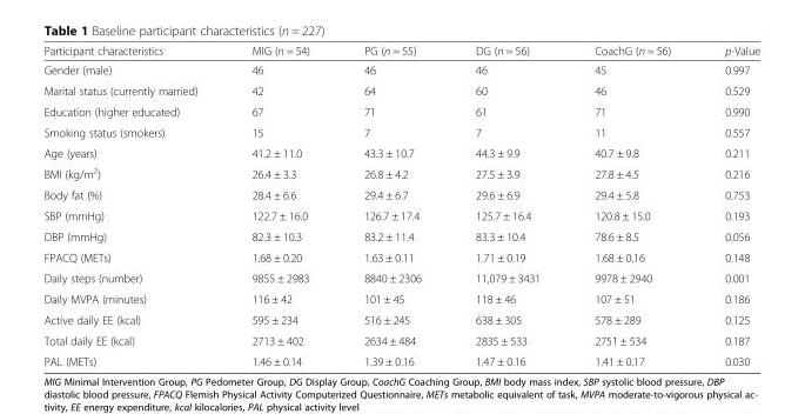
<table><thead><tr><td>Participant characteristics</td><td>MIG (n = 54)</td><td>PG (n = 55)</td><td>DG (n = 56)</td><td>CoachG (n = 56)</td><td>p-Value</td></tr></thead><tbody><tr><td>Gender (male)</td><td>46</td><td>46</td><td>46</td><td>45</td><td>0.997</td></tr><tr><td>Marital status (currently married)</td><td>42</td><td>64</td><td>60</td><td>46</td><td>0.529</td></tr><tr><td>Education (higher educated)</td><td>67</td><td>71</td><td>61</td><td>71</td><td>0.990</td></tr><tr><td>Smoking status (smokers)</td><td>15</td><td>7</td><td>7</td><td>11</td><td>0.557</td></tr><tr><td>Age (years)</td><td>41.2 ± 11.0</td><td>43.3 ± 10.7</td><td>44.3 ± 9.9</td><td>40.7 ± 9.8</td><td>0.211</td></tr><tr><td>BMI (kg/m<sup>2</sup>)</td><td>26.4 ± 3.3</td><td>26.8 ± 4.2</td><td>27.5 ± 3.9</td><td>27.8 ± 4.5</td><td>0.216</td></tr><tr><td>Body fat (%)</td><td>28.4 ± 6.6</td><td>29.4 ± 6.7</td><td>29.6 ± 6.9</td><td>29.4 ± 5.8</td><td>0.753</td></tr><tr><td>SBP (mmHg)</td><td>122.7 ± 16.0</td><td>126.7 ± 17.4</td><td>125.7 ± 16.4</td><td>120.8 ± 15.0</td><td>0.193</td></tr><tr><td>DBP (mmHg)</td><td>82.3 ± 10.3</td><td>83.2 ± 11.4</td><td>83.3 ± 10.4</td><td>78.6 ± 8.5</td><td>0.056</td></tr><tr><td>FPACQ (METs)</td><td>1.68 ± 0.20</td><td>1.63 ± 0.11</td><td>1.71 ± 0.19</td><td>1.68 ± 0.16</td><td>0.148</td></tr><tr><td>Daily steps (number)</td><td>9855 ± 2983</td><td>8840 ± 2306</td><td>11,079 ± 3431</td><td>9978 ± 2940</td><td>0.001</td></tr><tr><td>Daily MVPA (minutes)</td><td>116 ± 42</td><td>101 ± 45</td><td>118 ± 46</td><td>107 ± 51</td><td>0.186</td></tr><tr><td>Active daily EE (kcal)</td><td>595 ± 234</td><td>516 ± 245</td><td>638 ± 305</td><td>578 ± 289</td><td>0.125</td></tr><tr><td>Total daily EE (kcal)</td><td>2713 ± 402</td><td>2634 ± 484</td><td>2835 ± 533</td><td>2751 ± 534</td><td>0.187</td></tr><tr><td>PAL (METs)</td><td>1.46 ± 0.14</td><td>1.39 ± 0.16</td><td>1.47 ± 0.16</td><td>1.41 ± 0.17</td><td>0.030</td></tr></tbody></table>